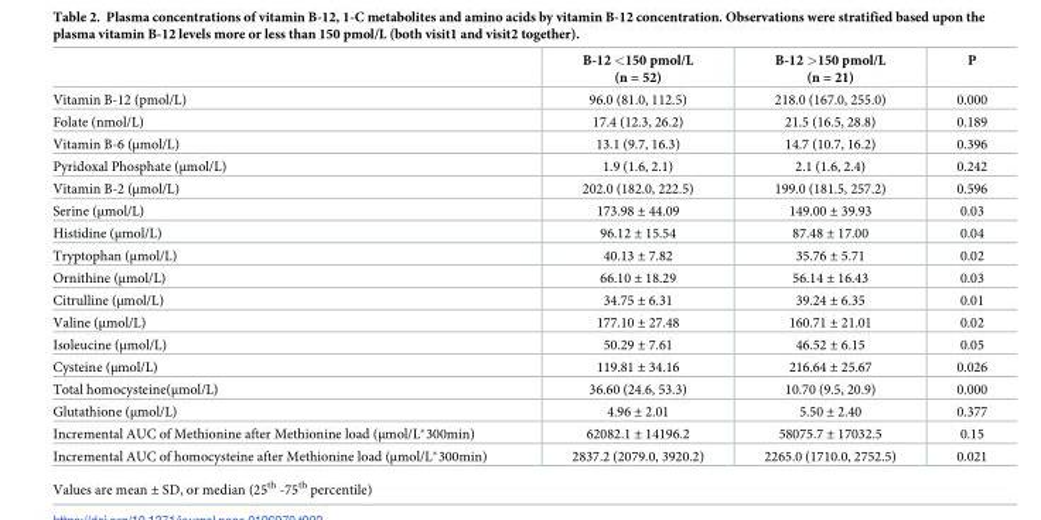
<table><thead><tr><td></td><td>B-12 &lt;150 pmol/L (n = 52)</td><td>B-12 &gt;150 pmol/L (n = 21)</td><td>P</td></tr></thead><tbody><tr><td>Vitamin B-12 (pmol/L)</td><td>96.0 (81.0, 112.5)</td><td>218.0 (167.0, 255.0)</td><td>0.000</td></tr><tr><td>Folate (nmol/L)</td><td>17.4 (12.3, 26.2)</td><td>21.5 (16.5, 28.8)</td><td>0.189</td></tr><tr><td>Vitamin B-6 (µmol/L)</td><td>13.1 (9.7, 16.3)</td><td>14.7 (10.7, 16.2)</td><td>0.396</td></tr><tr><td>Pyridoxal Phosphate (µmol/L)</td><td>1.9 (1.6, 2.1)</td><td>2.1 (1.6, 2.4)</td><td>0.242</td></tr><tr><td>Vitamin B-2 (µmol/L)</td><td>202.0 (182.0, 222.5)</td><td>199.0 (181.5, 257.2)</td><td>0.596</td></tr><tr><td>Serine (µmol/L)</td><td>173.98 ± 44.09</td><td>149.00 ± 39.93</td><td>0.03</td></tr><tr><td>Histidine (µmol/L)</td><td>96.12 ± 15.54</td><td>87.48 ± 17.00</td><td>0.04</td></tr><tr><td>Tryptophan (µmol/L)</td><td>40.13 ± 7.82</td><td>35.76 ± 5.71</td><td>0.02</td></tr><tr><td>Ornithine (µmol/L)</td><td>66.10 ± 18.29</td><td>56.14 ± 16.43</td><td>0.03</td></tr><tr><td>Citrulline (µmol/L)</td><td>34.75 ± 6.31</td><td>39.24 ± 6.35</td><td>0.01</td></tr><tr><td>Valine (µmol/L)</td><td>177.10 ± 27.48</td><td>160.71 ± 21.01</td><td>0.02</td></tr><tr><td>Isoleucine (µmol/L)</td><td>50.29 ± 7.61</td><td>46.52 ± 6.15</td><td>0.05</td></tr><tr><td>Cysteine (µmol/L)</td><td>119.81 ± 34.16</td><td>216.64 ± 25.67</td><td>0.026</td></tr><tr><td>Total homocysteine(µmol/L)</td><td>36.60 (24.6, 53.3)</td><td>10.70 (9.5, 20.9)</td><td>0.000</td></tr><tr><td>Glutathione (µmol/L)</td><td>4.96 ± 2.01</td><td>5.50 ± 2.40</td><td>0.377</td></tr><tr><td>Incremental AUC of Methionine after Methionine load (µmol/L*300min)</td><td>62082.1 ± 14196.2</td><td>58075.7 ± 17032.5</td><td>0.15</td></tr><tr><td>Incremental AUC of homocysteine after Methionine load (µmol/L*300min)</td><td>2837.2 (2079.0, 3920.2)</td><td>2265.0 (1710.0, 2752.5)</td><td>0.021</td></tr></tbody></table>